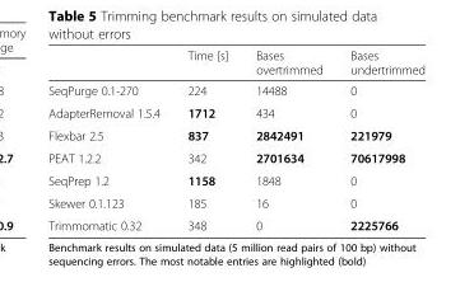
<table><thead><tr><td></td><td>Time [s]</td><td>Bases overtrimmed</td><td>Bases undertrimmed</td></tr></thead><tbody><tr><td>SeqPurge 0.1-270</td><td>224</td><td>14488</td><td>0</td></tr><tr><td>AdapterRemoval 1.5.4</td><td>1712</td><td>434</td><td>0</td></tr><tr><td>Flexbar 2.5</td><td>837</td><td>2842491</td><td>221979</td></tr><tr><td>PEAT 1.2.2</td><td>342</td><td>2701634</td><td>70617998</td></tr><tr><td>SeqPrep 1.2</td><td>1158</td><td>1848</td><td>0</td></tr><tr><td>Skewer 0.1.123</td><td>185</td><td>16</td><td>0</td></tr><tr><td>Trimmomatic 0.32</td><td>348</td><td>0</td><td>2225766</td></tr></tbody></table>